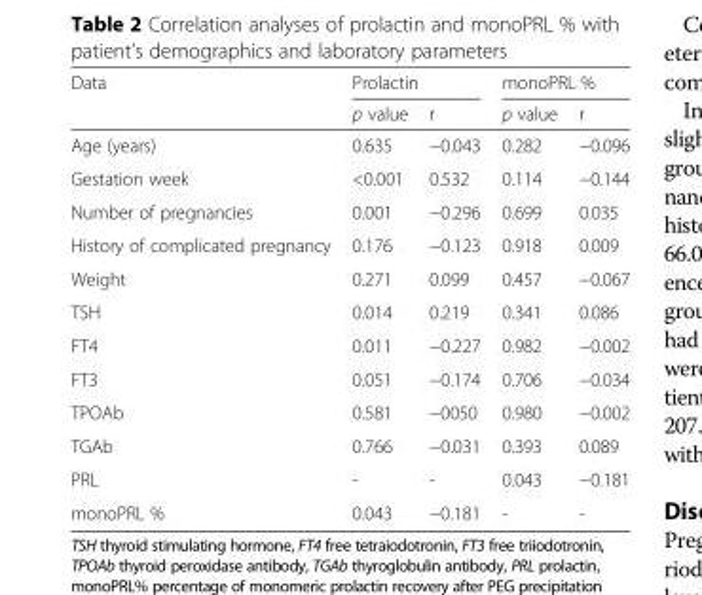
<table><thead><tr><td rowspan="2">Data</td><td colspan="2">Prolactin</td><td colspan="2">monoPRL %</td></tr><tr><td>p value</td><td>r</td><td>p value</td><td>r</td></tr></thead><tbody><tr><td>Age (years)</td><td>0.635</td><td>−0.043</td><td>0.282</td><td>−0.096</td></tr><tr><td>Gestation week</td><td>&lt;0.001</td><td>0.532</td><td>0.114</td><td>−0.144</td></tr><tr><td>Number of pregnancies</td><td>0.001</td><td>−0.296</td><td>0.699</td><td>0.035</td></tr><tr><td>History of complicated pregnancy</td><td>0.176</td><td>−0.123</td><td>0.918</td><td>0.009</td></tr><tr><td>Weight</td><td>0.271</td><td>0.099</td><td>0.457</td><td>−0.067</td></tr><tr><td>TSH</td><td>0.014</td><td>0.219</td><td>0.341</td><td>0.086</td></tr><tr><td>FT4</td><td>0.011</td><td>−0.227</td><td>0.982</td><td>−0.002</td></tr><tr><td>FT3</td><td>0.051</td><td>−0.174</td><td>0.706</td><td>−0.034</td></tr><tr><td>TPOAb</td><td>0.581</td><td>−0050</td><td>0.980</td><td>−0.002</td></tr><tr><td>TGAb</td><td>0.766</td><td>−0.031</td><td>0.393</td><td>0.089</td></tr><tr><td>PRL</td><td>-</td><td>-</td><td>0.043</td><td>−0.181</td></tr><tr><td>monoPRL %</td><td>0.043</td><td>−0.181</td><td>-</td><td>-</td></tr></tbody></table>